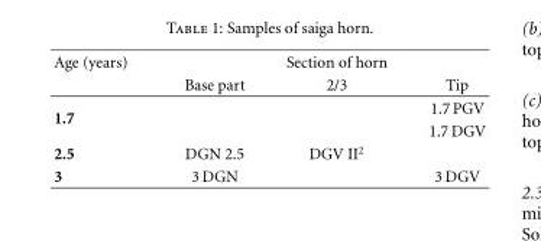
<table><thead><tr><td rowspan="2">Age (years)</td><td colspan="3">Section of horn</td></tr><tr><td>Base part</td><td>2/3</td><td>Tip</td></tr></thead><tbody><tr><td rowspan="2">1.7</td><td rowspan="2"></td><td rowspan="2"></td><td>1.7 PGV</td></tr><tr><td>1.7 DGV</td></tr><tr><td>2.5</td><td>DGN 2.5</td><td>DGV II<sup>2</sup></td><td></td></tr><tr><td>3</td><td>3 DGN</td><td></td><td>3 DGV</td></tr></tbody></table>